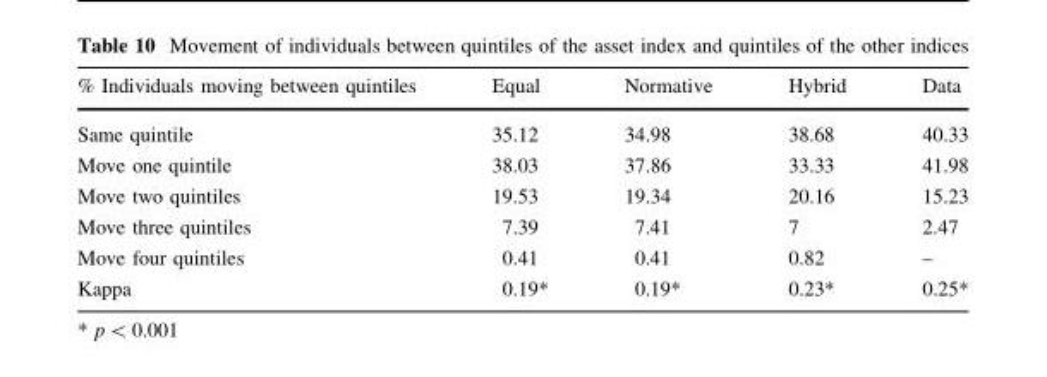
<table><thead><tr><td>% Individuals moving between quintiles</td><td>Equal</td><td>Normative</td><td>Hybrid</td><td>Data</td></tr></thead><tbody><tr><td>Same quintile</td><td>35.12</td><td>34.98</td><td>38.68</td><td>40.33</td></tr><tr><td>Move one quintile</td><td>38.03</td><td>37.86</td><td>33.33</td><td>41.98</td></tr><tr><td>Move two quintiles</td><td>19.53</td><td>19.34</td><td>20.16</td><td>15.23</td></tr><tr><td>Move three quintiles</td><td>7.39</td><td>7.41</td><td>7</td><td>2.47</td></tr><tr><td>Move four quintiles</td><td>0.41</td><td>0.41</td><td>0.82</td><td>–</td></tr><tr><td>Kappa</td><td>0.19*</td><td>0.19*</td><td>0.23*</td><td>0.25*</td></tr></tbody></table>